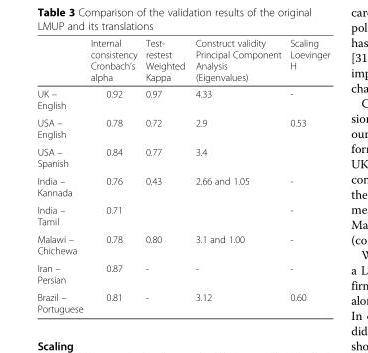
<table><thead><tr><td></td><td>Internal consistency Cronbach’s alpha</td><td>Test- restest Weighted Kappa</td><td>Construct validity Principal Component Analysis (Eigenvalues)</td><td>Scaling Loevinger H</td></tr></thead><tbody><tr><td>UK – English</td><td>0.92</td><td>0.97</td><td>4.33</td><td>-</td></tr><tr><td>USA – English</td><td>0.78</td><td>0.72</td><td>2.9</td><td rowspan="2">0.53</td></tr><tr><td>USA – Spanish</td><td>0.84</td><td>0.77</td><td>3.4</td></tr><tr><td>India – Kannada</td><td>0.76</td><td rowspan="2">0.43</td><td rowspan="2">2.66 and 1.05</td><td>-</td></tr><tr><td>India – Tamil</td><td>0.71</td><td>-</td></tr><tr><td>Malawi – Chichewa</td><td>0.78</td><td>0.80</td><td>3.1 and 1.00</td><td>-</td></tr><tr><td>Iran – Persian</td><td>0.87</td><td>-</td><td>-</td><td>-</td></tr><tr><td>Brazil – Portuguese</td><td>0.81</td><td>-</td><td>3.12</td><td>0.60</td></tr></tbody></table>